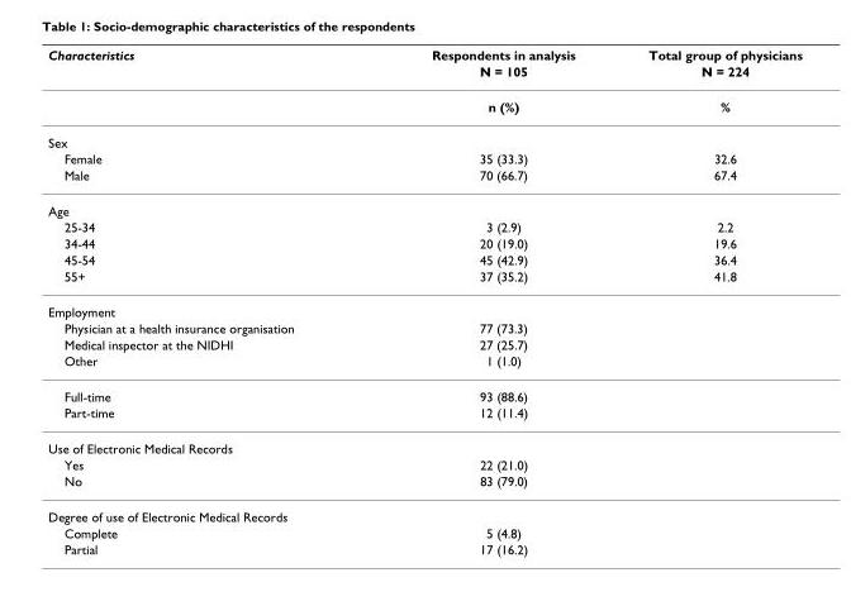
<table><thead><tr><td rowspan="2">Characteristics</td><td rowspan="2">Respondents in analysis N = 105</td><td rowspan="2">Total group of physicians N = 224</td></tr><tr></tr></thead><tbody><tr><td></td><td>n (%)</td><td>%</td></tr><tr><td colspan="3">Sex</td></tr><tr><td>Female</td><td>35 (33.3)</td><td>32.6</td></tr><tr><td>Male</td><td>70 (66.7)</td><td>67.4</td></tr><tr><td colspan="3">Age</td></tr><tr><td>25-34</td><td>3 (2.9)</td><td>2.2</td></tr><tr><td>34-44</td><td>20 (19.0)</td><td>19.6</td></tr><tr><td>45-54</td><td>45 (42.9)</td><td>36.4</td></tr><tr><td>55+</td><td>37 (35.2)</td><td>41.8</td></tr><tr><td colspan="3">Employment</td></tr><tr><td>Physician at a health insurance organisation</td><td>77 (73.3)</td><td></td></tr><tr><td>Medical inspector at the NIDHI</td><td>27 (25.7)</td><td></td></tr><tr><td>Other</td><td>1 (1.0)</td><td></td></tr><tr><td>Full-time</td><td>93 (88.6)</td><td></td></tr><tr><td>Part-time</td><td>12 (11.4)</td><td></td></tr><tr><td colspan="3">Use of Electronic Medical Records</td></tr><tr><td>Yes</td><td>22 (21.0)</td><td></td></tr><tr><td>No</td><td>83 (79.0)</td><td></td></tr><tr><td colspan="3">Degree of use of Electronic Medical Records</td></tr><tr><td>Complete</td><td>5 (4.8)</td><td></td></tr><tr><td>Partial</td><td>17 (16.2)</td><td></td></tr></tbody></table>